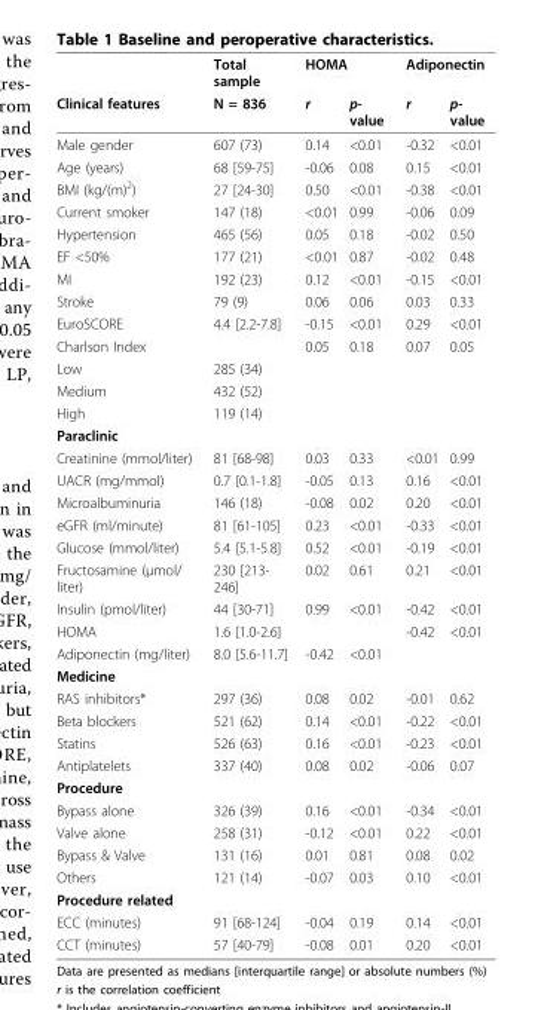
<table><thead><tr><td rowspan="2">Clinical features</td><td rowspan="2">Total sample N = 836</td><td colspan="2">HOMA</td><td colspan="2">Adiponectin</td></tr><tr><td>r</td><td>p- value</td><td>r</td><td>p- value</td></tr></thead><tbody><tr><td>Male gender</td><td>607 (73)</td><td>0.14</td><td>&lt;0.01</td><td>-0.32</td><td>&lt;0.01</td></tr><tr><td>Age (years)</td><td>68 [59-75]</td><td>-0.06</td><td>0.08</td><td>0.15</td><td>&lt;0.01</td></tr><tr><td>BMI (kg/(m)<sup>2</sup>)</td><td>27 [24-30]</td><td>0.50</td><td>&lt;0.01</td><td>-0.38</td><td>&lt;0.01</td></tr><tr><td>Current smoker</td><td>147 (18)</td><td>&lt;0.01</td><td>0.99</td><td>-0.06</td><td>0.09</td></tr><tr><td>Hypertension</td><td>465 (56)</td><td>0.05</td><td>0.18</td><td>-0.02</td><td>0.50</td></tr><tr><td>EF &lt;50%</td><td>177 (21)</td><td>&lt;0.01</td><td>0.87</td><td>-0.02</td><td>0.48</td></tr><tr><td>MI</td><td>192 (23)</td><td>0.12</td><td>&lt;0.01</td><td>-0.15</td><td>&lt;0.01</td></tr><tr><td>Stroke</td><td>79 (9)</td><td>0.06</td><td>0.06</td><td>0.03</td><td>0.33</td></tr><tr><td>EuroSCORE</td><td>4.4 [2.2-7.8]</td><td>-0.15</td><td>&lt;0.01</td><td>0.29</td><td>&lt;0.01</td></tr><tr><td>Charlson Index</td><td></td><td>0.05</td><td>0.18</td><td>0.07</td><td>0.05</td></tr><tr><td>Low</td><td>285 (34)</td><td></td><td></td><td></td><td></td></tr><tr><td>Medium</td><td>432 (52)</td><td></td><td></td><td></td><td></td></tr><tr><td>High</td><td>119 (14)</td><td></td><td></td><td></td><td></td></tr><tr><td colspan="6">Paraclinic</td></tr><tr><td>Creatinine (mmol/liter)</td><td>81 [68-98]</td><td>0.03</td><td>0.33</td><td>&lt;0.01</td><td>0.99</td></tr><tr><td>UACR (mg/mmol)</td><td>0.7 [0.1-1.8]</td><td>-0.05</td><td>0.13</td><td>0.16</td><td>&lt;0.01</td></tr><tr><td>Microalbuminuria</td><td>146 (18)</td><td>-0.08</td><td>0.02</td><td>0.20</td><td>&lt;0.01</td></tr><tr><td>eGFR (ml/minute)</td><td>81 [61-105]</td><td>0.23</td><td>&lt;0.01</td><td>-0.33</td><td>&lt;0.01</td></tr><tr><td>Glucose (mmol/liter)</td><td>5.4 [5.1-5.8]</td><td>0.52</td><td>&lt;0.01</td><td>-0.19</td><td>&lt;0.01</td></tr><tr><td>Fructosamine (μmol/ liter)</td><td>230 [213- 246]</td><td>0.02</td><td>0.61</td><td>0.21</td><td>&lt;0.01</td></tr><tr><td>Insulin (pmol/liter)</td><td>44 [30-71]</td><td>0.99</td><td>&lt;0.01</td><td>-0.42</td><td>&lt;0.01</td></tr><tr><td>HOMA</td><td>1.6 [1.0-2.6]</td><td></td><td></td><td>-0.42</td><td>&lt;0.01</td></tr><tr><td>Adiponectin (mg/liter)</td><td>8.0 [5.6-11.7]</td><td>-0.42</td><td>&lt;0.01</td><td></td><td></td></tr><tr><td colspan="6">Medicine</td></tr><tr><td>RAS inhibitors*</td><td>297 (36)</td><td>0.08</td><td>0.02</td><td>-0.01</td><td>0.62</td></tr><tr><td>Beta blockers</td><td>521 (62)</td><td>0.14</td><td>&lt;0.01</td><td>-0.22</td><td>&lt;0.01</td></tr><tr><td>Statins</td><td>526 (63)</td><td>0.16</td><td>&lt;0.01</td><td>-0.23</td><td>&lt;0.01</td></tr><tr><td>Antiplatelets</td><td>337 (40)</td><td>0.08</td><td>0.02</td><td>-0.06</td><td>0.07</td></tr><tr><td colspan="6">Procedure</td></tr><tr><td>Bypass alone</td><td>326 (39)</td><td>0.16</td><td>&lt;0.01</td><td>-0.34</td><td>&lt;0.01</td></tr><tr><td>Valve alone</td><td>258 (31)</td><td>-0.12</td><td>&lt;0.01</td><td>0.22</td><td>&lt;0.01</td></tr><tr><td>Bypass &amp; Valve</td><td>131 (16)</td><td>0.01</td><td>0.81</td><td>0.08</td><td>0.02</td></tr><tr><td>Others</td><td>121 (14)</td><td>-0.07</td><td>0.03</td><td>0.10</td><td>&lt;0.01</td></tr><tr><td colspan="6">Procedure related</td></tr><tr><td>ECC (minutes)</td><td>91 [68-124]</td><td>-0.04</td><td>0.19</td><td>0.14</td><td>&lt;0.01</td></tr><tr><td>CCT (minutes)</td><td>57 [40-79]</td><td>-0.08</td><td>0.01</td><td>0.20</td><td>&lt;0.01</td></tr></tbody></table>